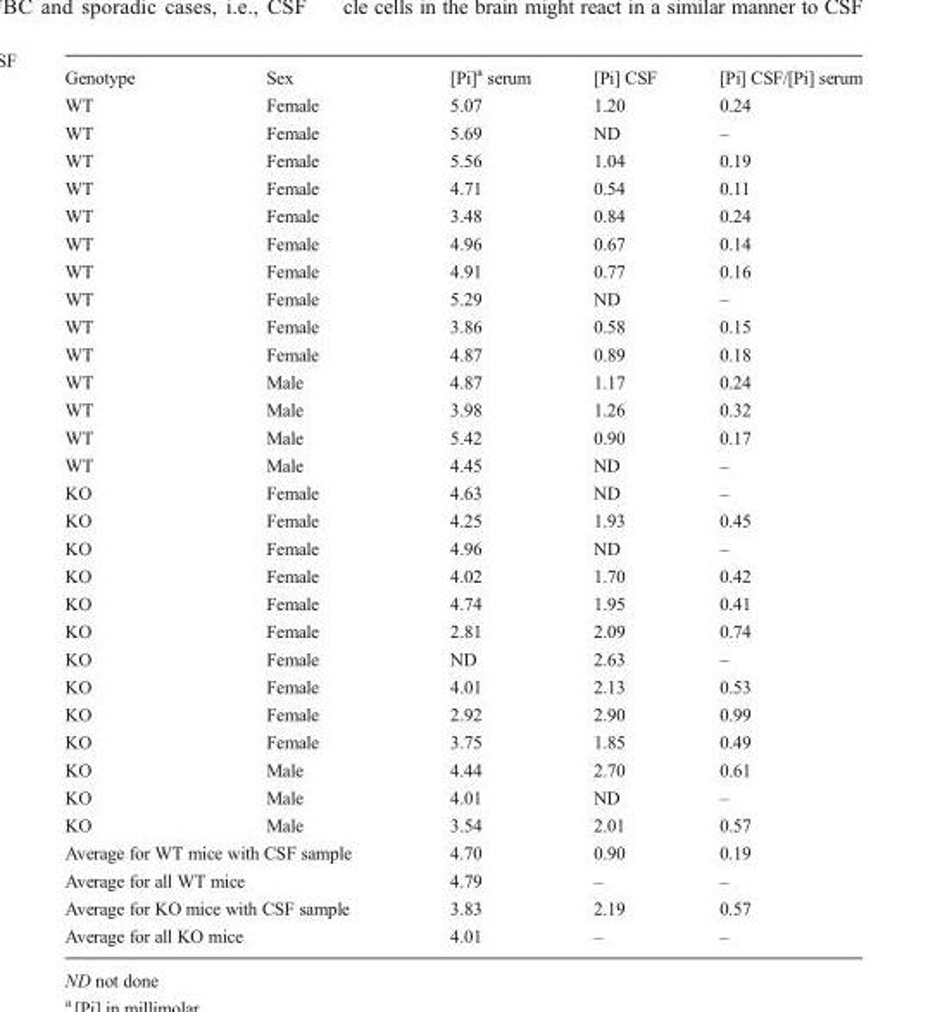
<table><tbody><tr><td>Genotype</td><td>Sex</td><td>[Pi]<sup>a</sup> serum</td><td>[Pi] CSF</td><td>[Pi] CSF/[Pi] serum</td></tr><tr><td>WT</td><td>Female</td><td>5.07</td><td>1.20</td><td>0.24</td></tr><tr><td>WT</td><td>Female</td><td>5.69</td><td>ND</td><td>–</td></tr><tr><td>WT</td><td>Female</td><td>5.56</td><td>1.04</td><td>0.19</td></tr><tr><td>WT</td><td>Female</td><td>4.71</td><td>0.54</td><td>0.11</td></tr><tr><td>WT</td><td>Female</td><td>3.48</td><td>0.84</td><td>0.24</td></tr><tr><td>WT</td><td>Female</td><td>4.96</td><td>0.67</td><td>0.14</td></tr><tr><td>WT</td><td>Female</td><td>4.91</td><td>0.77</td><td>0.16</td></tr><tr><td>WT</td><td>Female</td><td>5.29</td><td>ND</td><td>–</td></tr><tr><td>WT</td><td>Female</td><td>3.86</td><td>0.58</td><td>0.15</td></tr><tr><td>WT</td><td>Female</td><td>4.87</td><td>0.89</td><td>0.18</td></tr><tr><td>WT</td><td>Male</td><td>4.87</td><td>1.17</td><td>0.24</td></tr><tr><td>WT</td><td>Male</td><td>3.98</td><td>1.26</td><td>0.32</td></tr><tr><td>WT</td><td>Male</td><td>5.42</td><td>0.90</td><td>0.17</td></tr><tr><td>WT</td><td>Male</td><td>4.45</td><td>ND</td><td>–</td></tr><tr><td>KO</td><td>Female</td><td>4.63</td><td>ND</td><td>–</td></tr><tr><td>KO</td><td>Female</td><td>4.25</td><td>1.93</td><td>0.45</td></tr><tr><td>KO</td><td>Female</td><td>4.96</td><td>ND</td><td>–</td></tr><tr><td>KO</td><td>Female</td><td>4.02</td><td>1.70</td><td>0.42</td></tr><tr><td>KO</td><td>Female</td><td>4.74</td><td>1.95</td><td>0.41</td></tr><tr><td>KO</td><td>Female</td><td>2.81</td><td>2.09</td><td>0.74</td></tr><tr><td>KO</td><td>Female</td><td>ND</td><td>2.63</td><td>–</td></tr><tr><td>KO</td><td>Female</td><td>4.01</td><td>2.13</td><td>0.53</td></tr><tr><td>KO</td><td>Female</td><td>2.92</td><td>2.90</td><td>0.99</td></tr><tr><td>KO</td><td>Female</td><td>3.75</td><td>1.85</td><td>0.49</td></tr><tr><td>KO</td><td>Male</td><td>4.44</td><td>2.70</td><td>0.61</td></tr><tr><td>KO</td><td>Male</td><td>4.01</td><td>ND</td><td>–</td></tr><tr><td>KO</td><td>Male</td><td>3.54</td><td>2.01</td><td>0.57</td></tr><tr><td colspan="2">Average for WT mice with CSF sample</td><td>4.70</td><td>0.90</td><td>0.19</td></tr><tr><td colspan="2">Average for all WT mice</td><td>4.79</td><td>–</td><td>–</td></tr><tr><td colspan="2">Average for KO mice with CSF sample</td><td>3.83</td><td>2.19</td><td>0.57</td></tr><tr><td colspan="2">Average for all KO mice</td><td>4.01</td><td>–</td><td>–</td></tr></tbody></table>